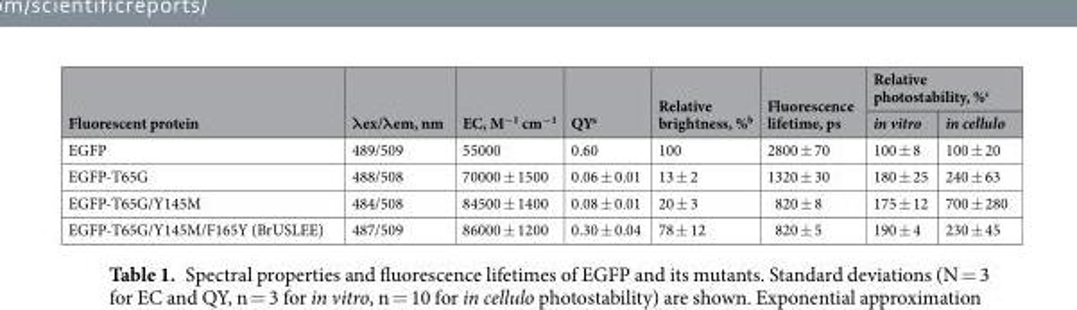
<table><thead><tr><td rowspan="2">Fluorescent protein</td><td rowspan="2">λex/λem, nm</td><td rowspan="2">EC, M<sup>−1</sup> cm<sup>−1</sup></td><td rowspan="2">QY<sup>a</sup></td><td rowspan="2">Relative brightness, %<sup>b</sup></td><td rowspan="2">Fluorescence lifetime, ps</td><td colspan="2">Relative photostability, %<sup>c</sup></td></tr><tr><td>in vitro</td><td>in cellulo</td></tr></thead><tbody><tr><td>EGFP</td><td>489/509</td><td>55000</td><td>0.60</td><td>100</td><td>2800 ± 70</td><td>100 ± 8</td><td>100 ± 20</td></tr><tr><td>EGFP-T65G</td><td>488/508</td><td>70000 ± 1500</td><td>0.06 ± 0.01</td><td>13 ± 2</td><td>1320 ± 30</td><td>180 ± 25</td><td>240 ± 63</td></tr><tr><td>EGFP-T65G/Y145M</td><td>484/508</td><td>84500 ± 1400</td><td>0.08 ± 0.01</td><td>20 ± 3</td><td>820 ± 8</td><td>175 ± 12</td><td>700 ± 280</td></tr><tr><td>EGFP-T65G/Y145M/F165Y (BrUSLEE)</td><td>487/509</td><td>86000 ± 1200</td><td>0.30 ± 0.04</td><td>78 ± 12</td><td>820 ± 5</td><td>190 ± 4</td><td>230 ± 45</td></tr></tbody></table>